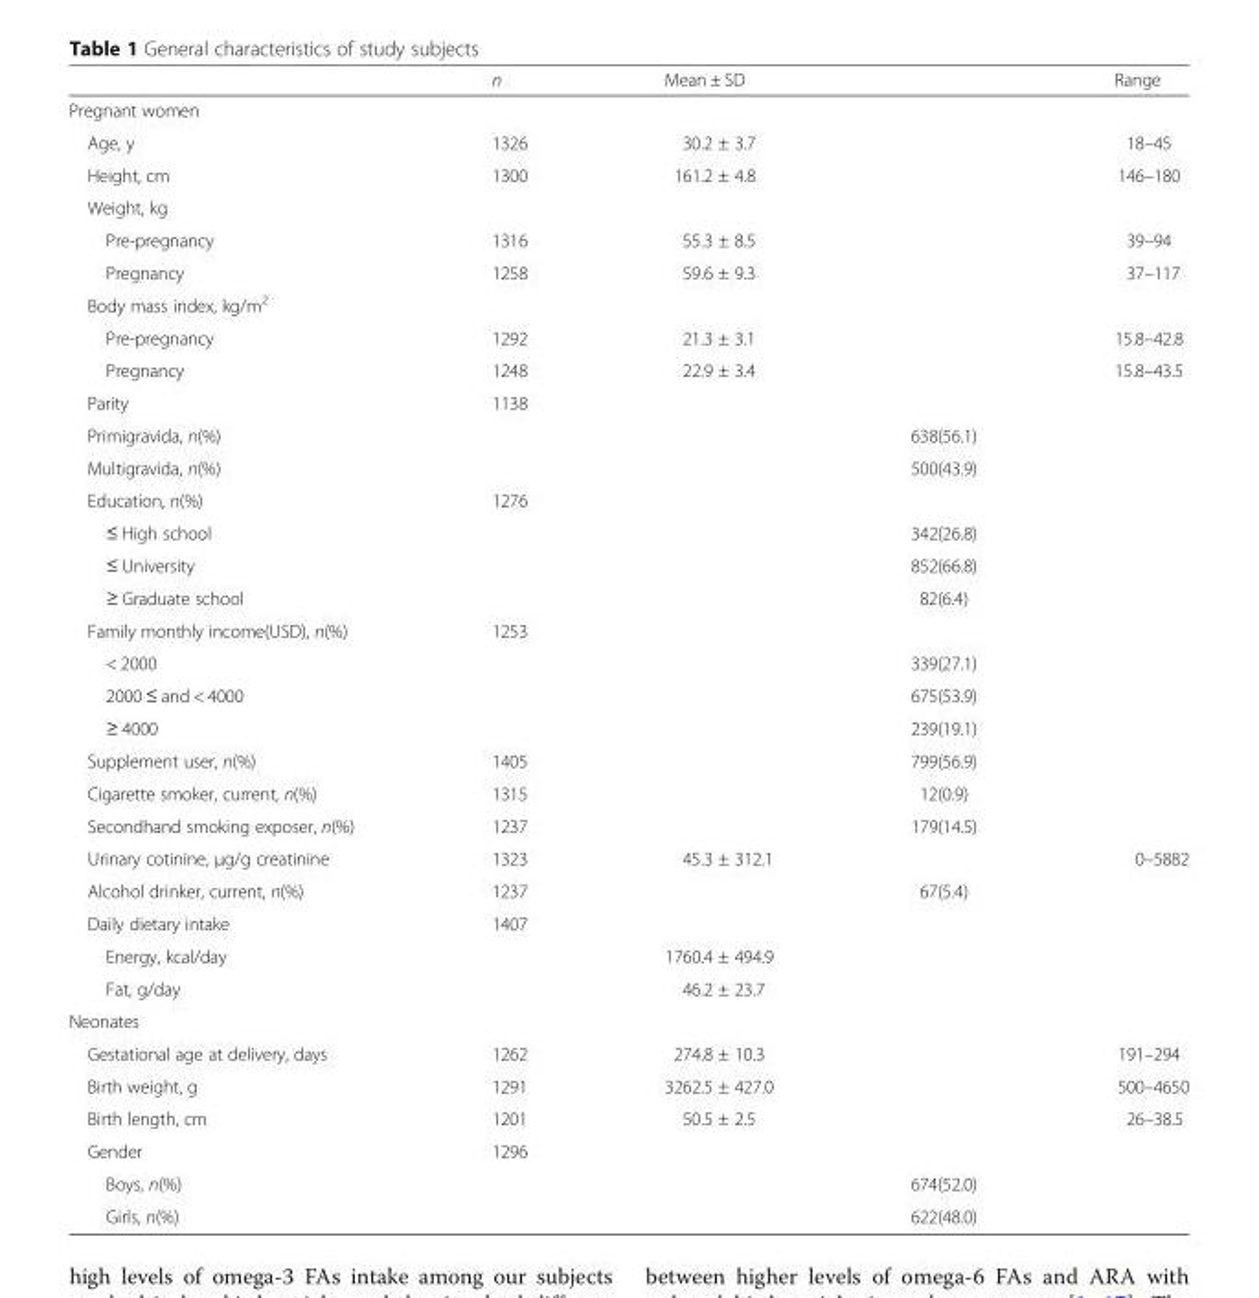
<table><thead><tr><td></td><td>n</td><td>Mean ± SD</td><td></td><td>Range</td></tr></thead><tbody><tr><td colspan="5">Pregnant women</td></tr><tr><td>Age, y</td><td>1326</td><td>30.2 ± 3.7</td><td></td><td>18–45</td></tr><tr><td>Height, cm</td><td>1300</td><td>161.2 ± 4.8</td><td></td><td>146–180</td></tr><tr><td colspan="5">Weight, kg</td></tr><tr><td>Pre-pregnancy</td><td>1316</td><td>55.3 ± 8.5</td><td></td><td>39–94</td></tr><tr><td>Pregnancy</td><td>1258</td><td>59.6 ± 9.3</td><td></td><td>37–117</td></tr><tr><td colspan="5">Body mass index, kg/m<sup>2</sup></td></tr><tr><td>Pre-pregnancy</td><td>1292</td><td>21.3 ± 3.1</td><td></td><td>15.8–42.8</td></tr><tr><td>Pregnancy</td><td>1248</td><td>22.9 ± 3.4</td><td></td><td>15.8–43.5</td></tr><tr><td>Parity</td><td>1138</td><td></td><td></td><td></td></tr><tr><td>Primigravida, n(%)</td><td></td><td></td><td>638(56.1)</td><td></td></tr><tr><td>Multigravida, n(%)</td><td></td><td></td><td>500(43.9)</td><td></td></tr><tr><td>Education, n(%)</td><td>1276</td><td></td><td></td><td></td></tr><tr><td>≤ High school</td><td></td><td></td><td>342(26.8)</td><td></td></tr><tr><td>≤ University</td><td></td><td></td><td>852(66.8)</td><td></td></tr><tr><td>≥ Graduate school</td><td></td><td></td><td>82(6.4)</td><td></td></tr><tr><td>Family monthly income(USD), n(%)</td><td>1253</td><td></td><td></td><td></td></tr><tr><td>&lt; 2000</td><td></td><td></td><td>339(27.1)</td><td></td></tr><tr><td>2000 ≤ and &lt; 4000</td><td></td><td></td><td>675(53.9)</td><td></td></tr><tr><td>≥ 4000</td><td></td><td></td><td>239(19.1)</td><td></td></tr><tr><td>Supplement user, n(%)</td><td>1405</td><td></td><td>799(56.9)</td><td></td></tr><tr><td>Cigarette smoker, current, n(%)</td><td>1315</td><td></td><td>12(0.9)</td><td></td></tr><tr><td>Secondhand smoking exposer, n(%)</td><td>1237</td><td></td><td>179(14.5)</td><td></td></tr><tr><td>Urinary cotinine, μg/g creatinine</td><td>1323</td><td>45.3 ± 312.1</td><td></td><td>0–5882</td></tr><tr><td>Alcohol drinker, current, n(%)</td><td>1237</td><td></td><td>67(5.4)</td><td></td></tr><tr><td>Daily dietary intake</td><td>1407</td><td></td><td></td><td></td></tr><tr><td>Energy, kcal/day</td><td></td><td>1760.4 ± 494.9</td><td></td><td></td></tr><tr><td>Fat, g/day</td><td></td><td>46.2 ± 23.7</td><td></td><td></td></tr><tr><td colspan="5">Neonates</td></tr><tr><td>Gestational age at delivery, days</td><td>1262</td><td>274.8 ± 10.3</td><td></td><td>191–294</td></tr><tr><td>Birth weight, g</td><td>1291</td><td>3262.5 ± 427.0</td><td></td><td>500–4650</td></tr><tr><td>Birth length, cm</td><td>1201</td><td>50.5 ± 2.5</td><td></td><td>26–38.5</td></tr><tr><td>Gender</td><td>1296</td><td></td><td></td><td></td></tr><tr><td>Boys, n(%)</td><td></td><td></td><td>674(52.0)</td><td></td></tr><tr><td>Girls, n(%)</td><td></td><td></td><td>622(48.0)</td><td></td></tr></tbody></table>